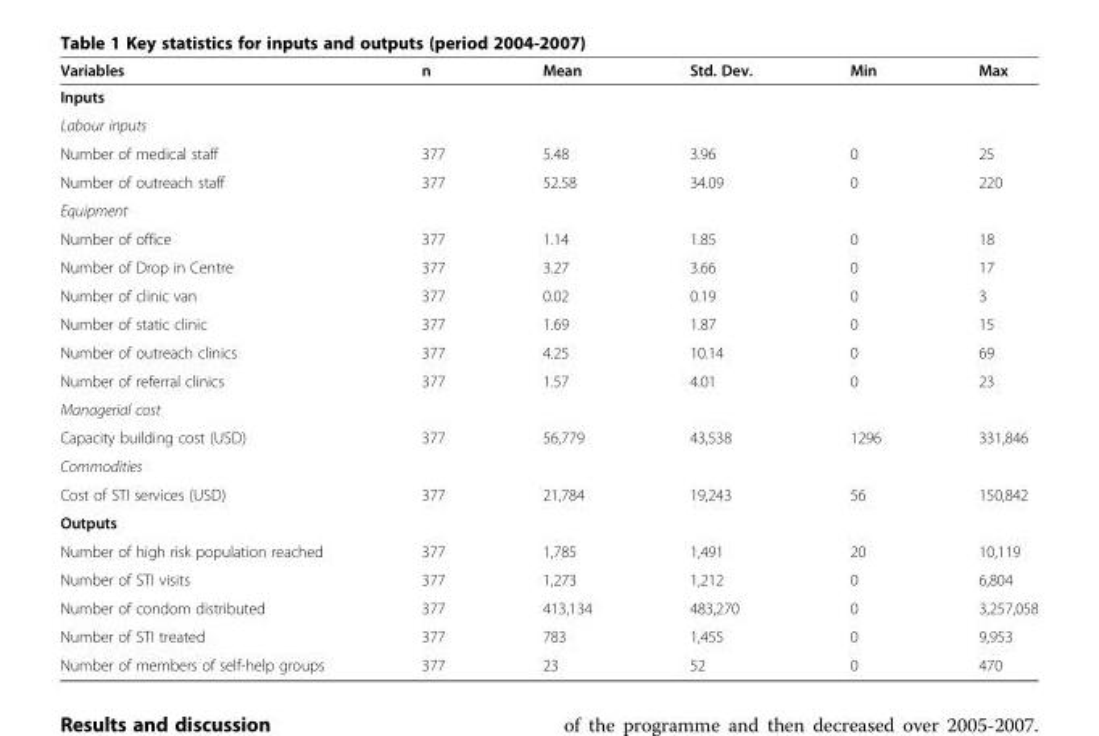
<table><thead><tr><td>Variables</td><td>n</td><td>Mean</td><td>Std. Dev.</td><td>Min</td><td>Max</td></tr></thead><tbody><tr><td colspan="6">Inputs</td></tr><tr><td colspan="6">Labour inputs</td></tr><tr><td>Number of medical staff</td><td>377</td><td>5.48</td><td>3.96</td><td>0</td><td>25</td></tr><tr><td>Number of outreach staff</td><td>377</td><td>52.58</td><td>34.09</td><td>0</td><td>220</td></tr><tr><td colspan="6">Equipment</td></tr><tr><td>Number of office</td><td>377</td><td>1.14</td><td>1.85</td><td>0</td><td>18</td></tr><tr><td>Number of Drop in Centre</td><td>377</td><td>3.27</td><td>3.66</td><td>0</td><td>17</td></tr><tr><td>Number of clinic van</td><td>377</td><td>0.02</td><td>0.19</td><td>0</td><td>3</td></tr><tr><td>Number of static clinic</td><td>377</td><td>1.69</td><td>1.87</td><td>0</td><td>15</td></tr><tr><td>Number of outreach clinics</td><td>377</td><td>4.25</td><td>10.14</td><td>0</td><td>69</td></tr><tr><td>Number of referral clinics</td><td>377</td><td>1.57</td><td>4.01</td><td>0</td><td>23</td></tr><tr><td colspan="6">Managerial cost</td></tr><tr><td>Capacity building cost (USD)</td><td>377</td><td>56,779</td><td>43,538</td><td>1296</td><td>331,846</td></tr><tr><td colspan="6">Commodities</td></tr><tr><td>Cost of STI services (USD)</td><td>377</td><td>21,784</td><td>19,243</td><td>56</td><td>150,842</td></tr><tr><td colspan="6">Outputs</td></tr><tr><td>Number of high risk population reached</td><td>377</td><td>1,785</td><td>1,491</td><td>20</td><td>10,119</td></tr><tr><td>Number of STI visits</td><td>377</td><td>1,273</td><td>1,212</td><td>0</td><td>6,804</td></tr><tr><td>Number of condom distributed</td><td>377</td><td>413,134</td><td>483,270</td><td>0</td><td>3,257,058</td></tr><tr><td>Number of STI treated</td><td>377</td><td>783</td><td>1,455</td><td>0</td><td>9,953</td></tr><tr><td>Number of members of self-help groups</td><td>377</td><td>23</td><td>52</td><td>0</td><td>470</td></tr></tbody></table>